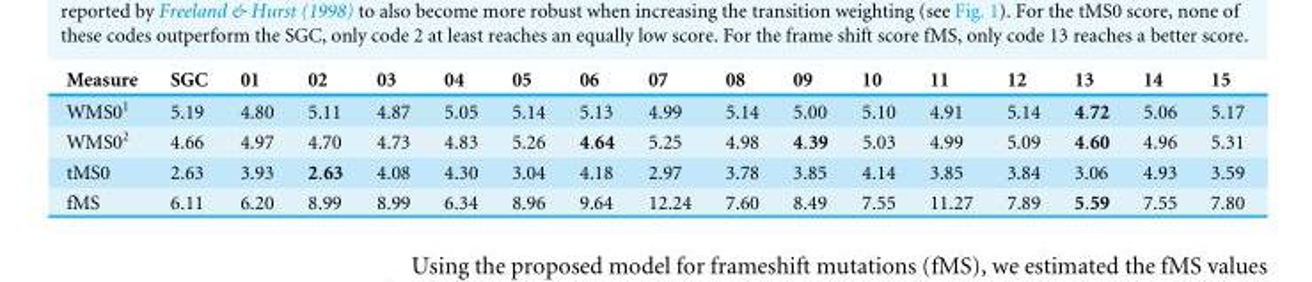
<table><thead><tr><td>Measure</td><td>SGC</td><td>01</td><td>02</td><td>03</td><td>04</td><td>05</td><td>06</td><td>07</td><td>08</td><td>09</td><td>10</td><td>11</td><td>12</td><td>13</td><td>14</td><td>15</td></tr></thead><tbody><tr><td>WMS0<sup>1</sup></td><td>5.19</td><td>4.80</td><td>5.11</td><td>4.87</td><td>5.05</td><td>5.14</td><td>5.13</td><td>4.99</td><td>5.14</td><td>5.00</td><td>5.10</td><td>4.91</td><td>5.14</td><td>4.72</td><td>5.06</td><td>5.17</td></tr><tr><td>WMS0<sup>2</sup></td><td>4.66</td><td>4.97</td><td>4.70</td><td>4.73</td><td>4.83</td><td>5.26</td><td>4.64</td><td>5.25</td><td>4.98</td><td>4.39</td><td>5.03</td><td>4.99</td><td>5.09</td><td>4.60</td><td>4.96</td><td>5.31</td></tr><tr><td>tMS0</td><td>2.63</td><td>3.93</td><td>2.63</td><td>4.08</td><td>4.30</td><td>3.04</td><td>4.18</td><td>2.97</td><td>3.78</td><td>3.85</td><td>4.14</td><td>3.85</td><td>3.84</td><td>3.06</td><td>4.93</td><td>3.59</td></tr><tr><td>fMS</td><td>6.11</td><td>6.20</td><td>8.99</td><td>8.99</td><td>6.34</td><td>8.96</td><td>9.64</td><td>12.24</td><td>7.60</td><td>8.49</td><td>7.55</td><td>11.27</td><td>7.89</td><td>5.59</td><td>7.55</td><td>7.80</td></tr></tbody></table>